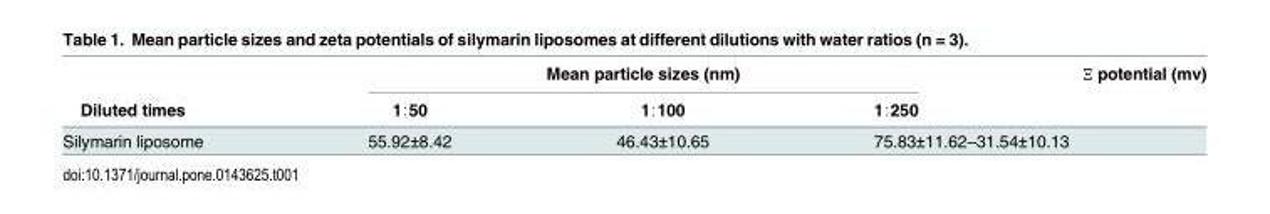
<table><thead><tr><td rowspan="2">Diluted times</td><td colspan="3">Mean particle sizes (nm)</td><td rowspan="2">Ξ potential (mv)</td></tr><tr><td>1∶50</td><td>1∶100</td><td>1∶250</td></tr></thead><tbody><tr><td>Silymarin liposome</td><td>55.92±8.42</td><td>46.43±10.65</td><td colspan="2">75.83±11.62–31.54±10.13</td></tr></tbody></table>